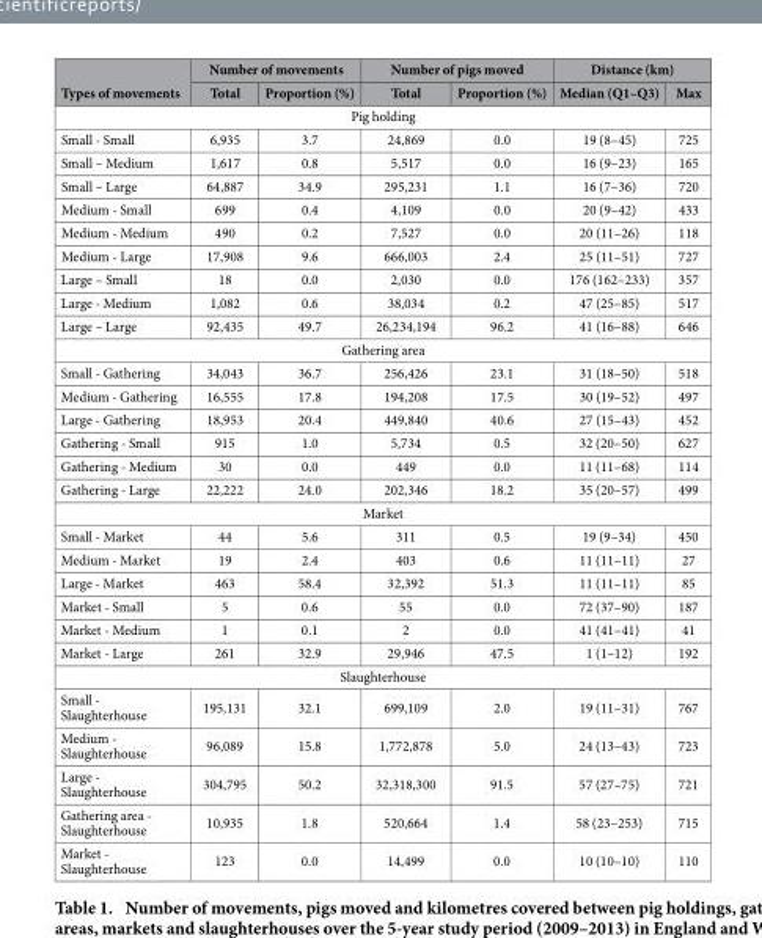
<table><thead><tr><td rowspan="2">Types of movements</td><td colspan="2">Number of movements</td><td colspan="2">Number of pigs moved</td><td colspan="2">Distance (km)</td></tr><tr><td>Total</td><td>Proportion (%)</td><td>Total</td><td>Proportion (%)</td><td>Median (Q1–Q3)</td><td>Max</td></tr></thead><tbody><tr><td colspan="7">Pig holding</td></tr><tr><td>Small - Small</td><td>6,935</td><td>3.7</td><td>24,869</td><td>0.0</td><td>19 (8–45)</td><td>725</td></tr><tr><td>Small – Medium</td><td>1,617</td><td>0.8</td><td>5,517</td><td>0.0</td><td>16 (9–23)</td><td>165</td></tr><tr><td>Small – Large</td><td>64,887</td><td>34.9</td><td>295,231</td><td>1.1</td><td>16 (7–36)</td><td>720</td></tr><tr><td>Medium - Small</td><td>699</td><td>0.4</td><td>4,109</td><td>0.0</td><td>20 (9–42)</td><td>433</td></tr><tr><td>Medium - Medium</td><td>490</td><td>0.2</td><td>7,527</td><td>0.0</td><td>20 (11–26)</td><td>118</td></tr><tr><td>Medium - Large</td><td>17,908</td><td>9.6</td><td>666,003</td><td>2.4</td><td>25 (11–51)</td><td>727</td></tr><tr><td>Large – Small</td><td>18</td><td>0.0</td><td>2,030</td><td>0.0</td><td>176 (162–233)</td><td>357</td></tr><tr><td>Large - Medium</td><td>1,082</td><td>0.6</td><td>38,034</td><td>0.2</td><td>47 (25–85)</td><td>517</td></tr><tr><td>Large – Large</td><td>92,435</td><td>49.7</td><td>26,234,194</td><td>96.2</td><td>41 (16–88)</td><td>646</td></tr><tr><td colspan="7">Gathering area</td></tr><tr><td>Small - Gathering</td><td>34,043</td><td>36.7</td><td>256,426</td><td>23.1</td><td>31 (18–50)</td><td>518</td></tr><tr><td>Medium - Gathering</td><td>16,555</td><td>17.8</td><td>194,208</td><td>17.5</td><td>30 (19–52)</td><td>497</td></tr><tr><td>Large - Gathering</td><td>18,953</td><td>20.4</td><td>449,840</td><td>40.6</td><td>27 (15–43)</td><td>452</td></tr><tr><td>Gathering - Small</td><td>915</td><td>1.0</td><td>5,734</td><td>0.5</td><td>32 (20–50)</td><td>627</td></tr><tr><td>Gathering - Medium</td><td>30</td><td>0.0</td><td>449</td><td>0.0</td><td>11 (11–68)</td><td>114</td></tr><tr><td>Gathering - Large</td><td>22,222</td><td>24.0</td><td>202,346</td><td>18.2</td><td>35 (20–57)</td><td>499</td></tr><tr><td colspan="7">Market</td></tr><tr><td>Small - Market</td><td>44</td><td>5.6</td><td>311</td><td>0.5</td><td>19 (9–34)</td><td>450</td></tr><tr><td>Medium - Market</td><td>19</td><td>2.4</td><td>403</td><td>0.6</td><td>11 (11–11)</td><td>27</td></tr><tr><td>Large - Market</td><td>463</td><td>58.4</td><td>32,392</td><td>51.3</td><td>11 (11–11)</td><td>85</td></tr><tr><td>Market - Small</td><td>5</td><td>0.6</td><td>55</td><td>0.0</td><td>72 (37–90)</td><td>187</td></tr><tr><td>Market - Medium</td><td>1</td><td>0.1</td><td>2</td><td>0.0</td><td>41 (41–41)</td><td>41</td></tr><tr><td>Market - Large</td><td>261</td><td>32.9</td><td>29,946</td><td>47.5</td><td>1 (1–12)</td><td>192</td></tr><tr><td colspan="7">Slaughterhouse</td></tr><tr><td>Small - Slaughterhouse</td><td>195,131</td><td>32.1</td><td>699,109</td><td>2.0</td><td>19 (11–31)</td><td>767</td></tr><tr><td>Medium - Slaughterhouse</td><td>96,089</td><td>15.8</td><td>1,772,878</td><td>5.0</td><td>24 (13–43)</td><td>723</td></tr><tr><td>Large - Slaughterhouse</td><td>304,795</td><td>50.2</td><td>32,318,300</td><td>91.5</td><td>57 (27–75)</td><td>721</td></tr><tr><td>Gathering area - Slaughterhouse</td><td>10,935</td><td>1.8</td><td>520,664</td><td>1.4</td><td>58 (23–253)</td><td>715</td></tr><tr><td>Market - Slaughterhouse</td><td>123</td><td>0.0</td><td>14,499</td><td>0.0</td><td>10 (10–10)</td><td>110</td></tr></tbody></table>